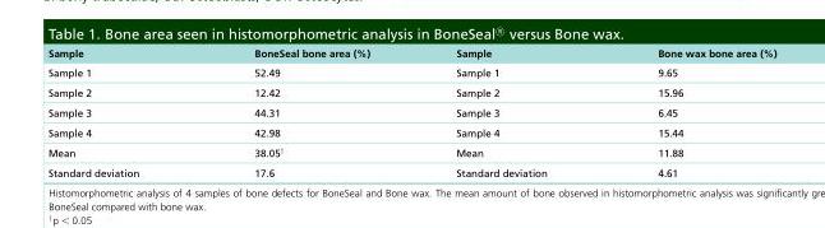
<table><thead><tr><td>Sample</td><td>BoneSeal bone area (%)</td><td>Sample</td><td>Bone wax bone area (%)</td></tr></thead><tbody><tr><td>Sample 1</td><td>52.49</td><td>Sample 1</td><td>9.65</td></tr><tr><td>Sample 2</td><td>12.42</td><td>Sample 2</td><td>15.96</td></tr><tr><td>Sample 3</td><td>44.31</td><td>Sample 3</td><td>6.45</td></tr><tr><td>Sample 4</td><td>42.98</td><td>Sample 4</td><td>15.44</td></tr><tr><td>Mean</td><td>38.05<sup>†</sup></td><td>Mean</td><td>11.88</td></tr><tr><td>Standard deviation</td><td>17.6</td><td>Standard deviation</td><td>4.61</td></tr></tbody></table>